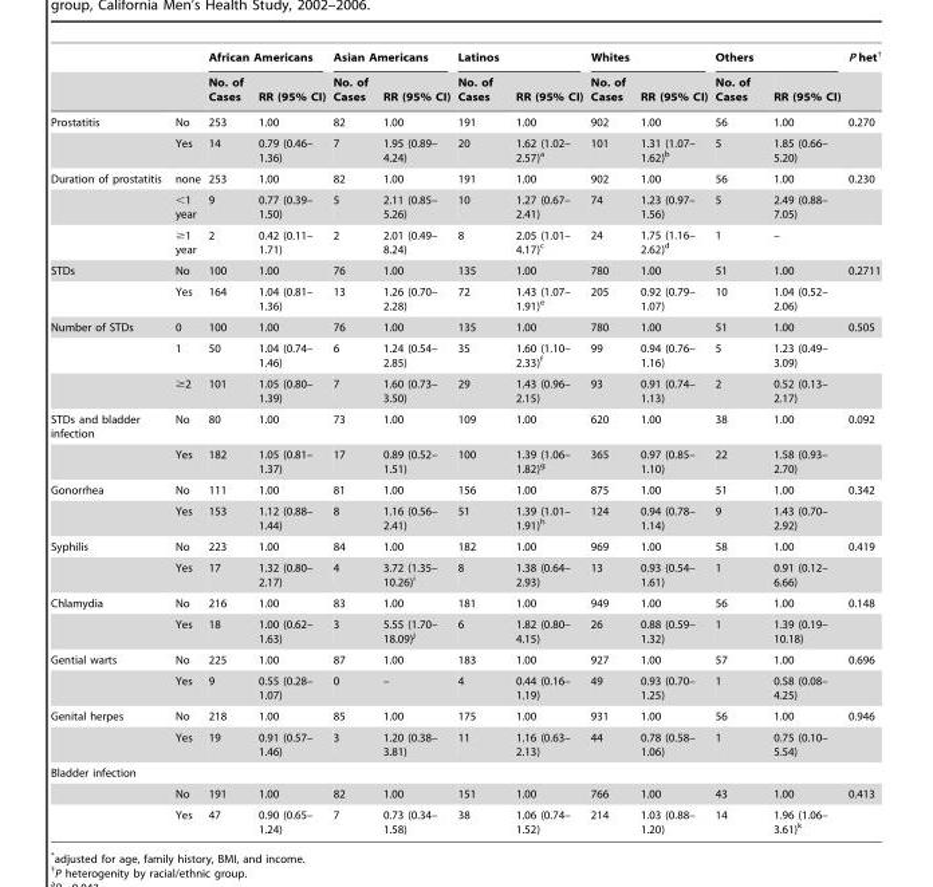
<table><thead><tr><td rowspan="2"></td><td rowspan="2"></td><td colspan="2">African Americans</td><td colspan="2">Asian Americans</td><td colspan="2">Latinos</td><td colspan="2">Whites</td><td colspan="2">Others</td><td rowspan="2">P het†</td></tr><tr><td>No. of Cases</td><td>RR (95% CI)</td><td>No. of Cases</td><td>RR (95% CI)</td><td>No. of Cases</td><td>RR (95% CI)</td><td>No. of Cases</td><td>RR (95% CI)</td><td>No. of Cases</td><td>RR (95% CI)</td></tr></thead><tbody><tr><td rowspan="2">Prostatitis</td><td>No</td><td>253</td><td>1.00</td><td>82</td><td>1.00</td><td>191</td><td>1.00</td><td>902</td><td>1.00</td><td>56</td><td>1.00</td><td>0.270</td></tr><tr><td>Yes</td><td>14</td><td>0.79 (0.46– 1.36)</td><td>7</td><td>1.95 (0.89– 4.24)</td><td>20</td><td>1.62 (1.02– 2.57)<sup>a</sup></td><td>101</td><td>1.31 (1.07– 1.62)<sup>b</sup></td><td>5</td><td>1.85 (0.66– 5.20)</td><td></td></tr><tr><td rowspan="3">Duration of prostatitis</td><td>none</td><td>253</td><td>1.00</td><td>82</td><td>1.00</td><td>191</td><td>1.00</td><td>902</td><td>1.00</td><td>56</td><td>1.00</td><td>0.230</td></tr><tr><td>&lt;1 year</td><td>9</td><td>0.77 (0.39– 1.50)</td><td>5</td><td>2.11 (0.85– 5.26)</td><td>10</td><td>1.27 (0.67– 2.41)</td><td>74</td><td>1.23 (0.97– 1.56)</td><td>5</td><td>2.49 (0.88– 7.05)</td><td></td></tr><tr><td>≥1 year</td><td>2</td><td>0.42 (0.11– 1.71)</td><td>2</td><td>2.01 (0.49– 8.24)</td><td>8</td><td>2.05 (1.01– 4.17)<sup>c</sup></td><td>24</td><td>1.75 (1.16– 2.62)<sup>d</sup></td><td>1</td><td>–</td><td></td></tr><tr><td rowspan="2">STDs</td><td>No</td><td>100</td><td>1.00</td><td>76</td><td>1.00</td><td>135</td><td>1.00</td><td>780</td><td>1.00</td><td>51</td><td>1.00</td><td>0.2711</td></tr><tr><td>Yes</td><td>164</td><td>1.04 (0.81– 1.36)</td><td>13</td><td>1.26 (0.70– 2.28)</td><td>72</td><td>1.43 (1.07– 1.91)<sup>e</sup></td><td>205</td><td>0.92 (0.79– 1.07)</td><td>10</td><td>1.04 (0.52– 2.06)</td><td></td></tr><tr><td rowspan="3">Number of STDs</td><td>0</td><td>100</td><td>1.00</td><td>76</td><td>1.00</td><td>135</td><td>1.00</td><td>780</td><td>1.00</td><td>51</td><td>1.00</td><td>0.505</td></tr><tr><td>1</td><td>50</td><td>1.04 (0.74– 1.46)</td><td>6</td><td>1.24 (0.54– 2.85)</td><td>35</td><td>1.60 (1.10– 2.33)<sup>f</sup></td><td>99</td><td>0.94 (0.76– 1.16)</td><td>5</td><td>1.23 (0.49– 3.09)</td><td></td></tr><tr><td>≥2</td><td>101</td><td>1.05 (0.80– 1.39)</td><td>7</td><td>1.60 (0.73– 3.50)</td><td>29</td><td>1.43 (0.96– 2.15)</td><td>93</td><td>0.91 (0.74– 1.13)</td><td>2</td><td>0.52 (0.13– 2.17)</td><td></td></tr><tr><td rowspan="2">STDs and bladder infection</td><td>No</td><td>80</td><td>1.00</td><td>73</td><td>1.00</td><td>109</td><td>1.00</td><td>620</td><td>1.00</td><td>38</td><td>1.00</td><td>0.092</td></tr><tr><td>Yes</td><td>182</td><td>1.05 (0.81– 1.37)</td><td>17</td><td>0.89 (0.52– 1.51)</td><td>100</td><td>1.39 (1.06– 1.82)<sup>g</sup></td><td>365</td><td>0.97 (0.85– 1.10)</td><td>22</td><td>1.58 (0.93– 2.70)</td><td></td></tr><tr><td rowspan="2">Gonorrhea</td><td>No</td><td>111</td><td>1.00</td><td>81</td><td>1.00</td><td>156</td><td>1.00</td><td>875</td><td>1.00</td><td>51</td><td>1.00</td><td>0.342</td></tr><tr><td>Yes</td><td>153</td><td>1.12 (0.88– 1.44)</td><td>8</td><td>1.16 (0.56– 2.41)</td><td>51</td><td>1.39 (1.01– 1.91)<sup>h</sup></td><td>124</td><td>0.94 (0.78– 1.14)</td><td>9</td><td>1.43 (0.70– 2.92)</td><td></td></tr><tr><td rowspan="2">Syphilis</td><td>No</td><td>223</td><td>1.00</td><td>84</td><td>1.00</td><td>182</td><td>1.00</td><td>969</td><td>1.00</td><td>58</td><td>1.00</td><td>0.419</td></tr><tr><td>Yes</td><td>17</td><td>1.32 (0.80– 2.17)</td><td>4</td><td>3.72 (1.35– 10.26)<sup>i</sup></td><td>8</td><td>1.38 (0.64– 2.93)</td><td>13</td><td>0.93 (0.54– 1.61)</td><td>1</td><td>0.91 (0.12– 6.66)</td><td></td></tr><tr><td rowspan="2">Chlamydia</td><td>No</td><td>216</td><td>1.00</td><td>83</td><td>1.00</td><td>181</td><td>1.00</td><td>949</td><td>1.00</td><td>56</td><td>1.00</td><td>0.148</td></tr><tr><td>Yes</td><td>18</td><td>1.00 (0.62– 1.63)</td><td>3</td><td>5.55 (1.70– 18.09)<sup>j</sup></td><td>6</td><td>1.82 (0.80– 4.15)</td><td>26</td><td>0.88 (0.59– 1.32)</td><td>1</td><td>1.39 (0.19– 10.18)</td><td></td></tr><tr><td rowspan="2">Gential warts</td><td>No</td><td>225</td><td>1.00</td><td>87</td><td>1.00</td><td>183</td><td>1.00</td><td>927</td><td>1.00</td><td>57</td><td>1.00</td><td>0.696</td></tr><tr><td>Yes</td><td>9</td><td>0.55 (0.28– 1.07)</td><td>0</td><td>–</td><td>4</td><td>0.44 (0.16– 1.19)</td><td>49</td><td>0.93 (0.70– 1.25)</td><td>1</td><td>0.58 (0.08– 4.25)</td><td></td></tr><tr><td rowspan="2">Genital herpes</td><td>No</td><td>218</td><td>1.00</td><td>85</td><td>1.00</td><td>175</td><td>1.00</td><td>931</td><td>1.00</td><td>56</td><td>1.00</td><td>0.946</td></tr><tr><td>Yes</td><td>19</td><td>0.91 (0.57– 1.46)</td><td>3</td><td>1.20 (0.38– 3.81)</td><td>11</td><td>1.16 (0.63– 2.13)</td><td>44</td><td>0.78 (0.58– 1.06)</td><td>1</td><td>0.75 (0.10– 5.54)</td><td></td></tr><tr><td colspan="13">Bladder infection</td></tr><tr><td></td><td>No</td><td>191</td><td>1.00</td><td>82</td><td>1.00</td><td>151</td><td>1.00</td><td>766</td><td>1.00</td><td>43</td><td>1.00</td><td>0.413</td></tr><tr><td></td><td>Yes</td><td>47</td><td>0.90 (0.65– 1.24)</td><td>7</td><td>0.73 (0.34– 1.58)</td><td>38</td><td>1.06 (0.74– 1.52)</td><td>214</td><td>1.03 (0.88– 1.20)</td><td>14</td><td>1.96 (1.06– 3.61)<sup>k</sup></td><td></td></tr></tbody></table>